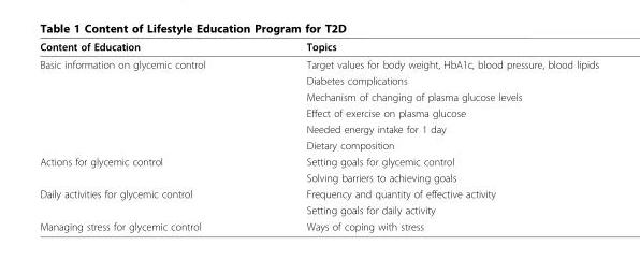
<table><thead><tr><td>Content of Education</td><td>Topics</td></tr></thead><tbody><tr><td rowspan="6">Basic information on glycemic control</td><td>Target values for body weight, HbA1c, blood pressure, blood lipids</td></tr><tr><td>Diabetes complications</td></tr><tr><td>Mechanism of changing of plasma glucose levels</td></tr><tr><td>Effect of exercise on plasma glucose</td></tr><tr><td>Needed energy intake for 1 day</td></tr><tr><td>Dietary composition</td></tr><tr><td rowspan="2">Actions for glycemic control</td><td>Setting goals for glycemic control</td></tr><tr><td>Solving barriers to achieving goals</td></tr><tr><td rowspan="2">Daily activities for glycemic control</td><td>Frequency and quantity of effective activity</td></tr><tr><td>Setting goals for daily activity</td></tr><tr><td>Managing stress for glycemic control</td><td>Ways of coping with stress</td></tr></tbody></table>